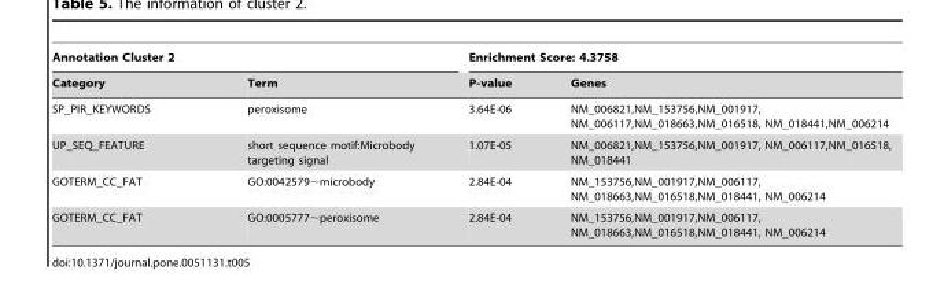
<table><thead><tr><td colspan="2">Annotation Cluster 2</td><td colspan="2">Enrichment Score: 4.3758</td></tr><tr><td>Category</td><td>Term</td><td>P-value</td><td>Genes</td></tr></thead><tbody><tr><td>SP_PIR_KEYWORDS</td><td>peroxisome</td><td>3.64E-06</td><td>NM_006821,NM_153756,NM_001917, NM_006117,NM_018663,NM_016518, NM_018441,NM_006214</td></tr><tr><td>UP_SEQ_FEATURE</td><td>short sequence motif:Microbody targeting signal</td><td>1.07E-05</td><td>NM_006821,NM_153756,NM_001917, NM_006117,NM_016518, NM_018441</td></tr><tr><td>GOTERM_CC_FAT</td><td>GO:0042579∼microbody</td><td>2.84E-04</td><td>NM_153756,NM_001917,NM_006117, NM_018663,NM_016518,NM_018441, NM_006214</td></tr><tr><td>GOTERM_CC_FAT</td><td>GO:0005777∼peroxisome</td><td>2.84E-04</td><td>NM_153756,NM_001917,NM_006117, NM_018663,NM_016518,NM_018441, NM_006214</td></tr></tbody></table>